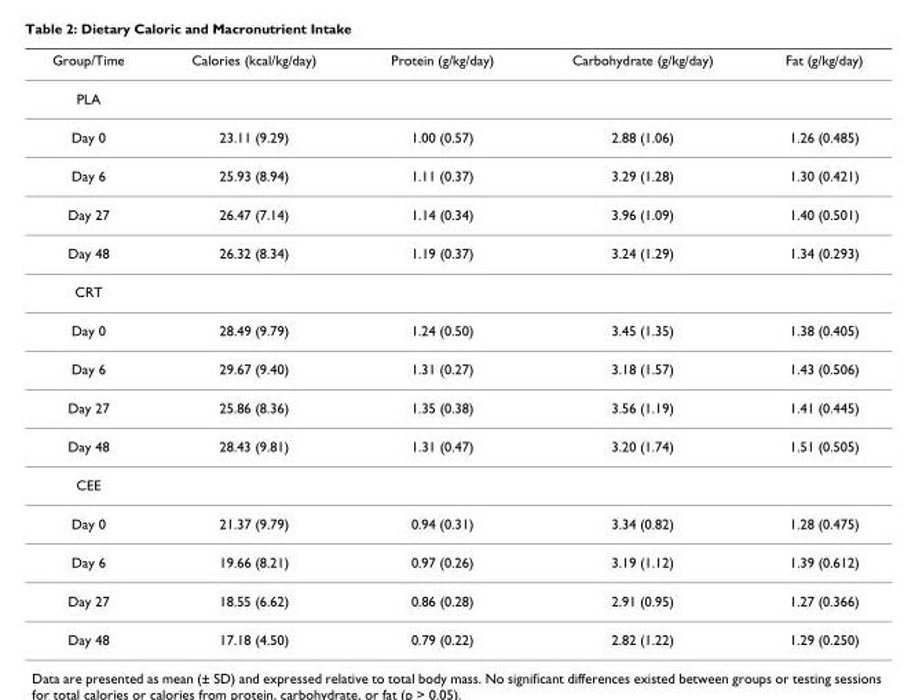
<table><thead><tr><td>Group/Time</td><td>Calories (kcal/kg/day)</td><td>Protein (g/kg/day)</td><td>Carbohydrate (g/kg/day)</td><td>Fat (g/kg/day)</td></tr></thead><tbody><tr><td colspan="5">PLA</td></tr><tr><td>Day 0</td><td>23.11 (9.29)</td><td>1.00 (0.57)</td><td>2.88 (1.06)</td><td>1.26 (0.485)</td></tr><tr><td>Day 6</td><td>25.93 (8.94)</td><td>1.11 (0.37)</td><td>3.29 (1.28)</td><td>1.30 (0.421)</td></tr><tr><td>Day 27</td><td>26.47 (7.14)</td><td>1.14 (0.34)</td><td>3.96 (1.09)</td><td>1.40 (0.501)</td></tr><tr><td>Day 48</td><td>26.32 (8.34)</td><td>1.19 (0.37)</td><td>3.24 (1.29)</td><td>1.34 (0.293)</td></tr><tr><td colspan="5">CRT</td></tr><tr><td>Day 0</td><td>28.49 (9.79)</td><td>1.24 (0.50)</td><td>3.45 (1.35)</td><td>1.38 (0.405)</td></tr><tr><td>Day 6</td><td>29.67 (9.40)</td><td>1.31 (0.27)</td><td>3.18 (1.57)</td><td>1.43 (0.506)</td></tr><tr><td>Day 27</td><td>25.86 (8.36)</td><td>1.35 (0.38)</td><td>3.56 (1.19)</td><td>1.41 (0.445)</td></tr><tr><td>Day 48</td><td>28.43 (9.81)</td><td>1.31 (0.47)</td><td>3.20 (1.74)</td><td>1.51 (0.505)</td></tr><tr><td colspan="5">CEE</td></tr><tr><td>Day 0</td><td>21.37 (9.79)</td><td>0.94 (0.31)</td><td>3.34 (0.82)</td><td>1.28 (0.475)</td></tr><tr><td>Day 6</td><td>19.66 (8.21)</td><td>0.97 (0.26)</td><td>3.19 (1.12)</td><td>1.39 (0.612)</td></tr><tr><td>Day 27</td><td>18.55 (6.62)</td><td>0.86 (0.28)</td><td>2.91 (0.95)</td><td>1.27 (0.366)</td></tr><tr><td>Day 48</td><td>17.18 (4.50)</td><td>0.79 (0.22)</td><td>2.82 (1.22)</td><td>1.29 (0.250)</td></tr></tbody></table>